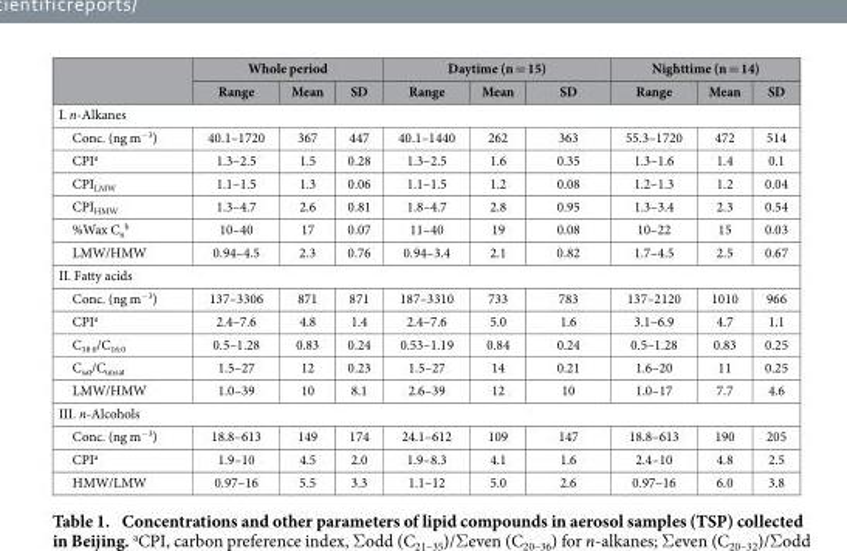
<table><thead><tr><td rowspan="2"></td><td colspan="3">Whole period</td><td colspan="3">Daytime (n = 15)</td><td colspan="3">Nighttime (n = 14)</td></tr><tr><td>Range</td><td>Mean</td><td>SD</td><td>Range</td><td>Mean</td><td>SD</td><td>Range</td><td>Mean</td><td>SD</td></tr></thead><tbody><tr><td colspan="10">I. n-Alkanes</td></tr><tr><td>Conc. (ng m<sup>−3</sup>)</td><td>40.1–1720</td><td>367</td><td>447</td><td>40.1–1440</td><td>262</td><td>363</td><td>55.3–1720</td><td>472</td><td>514</td></tr><tr><td>CPI<sup>a</sup></td><td>1.3–2.5</td><td>1.5</td><td>0.28</td><td>1.3–2.5</td><td>1.6</td><td>0.35</td><td>1.3–1.6</td><td>1.4</td><td>0.1</td></tr><tr><td>CPI<sub>LMW</sub></td><td>1.1–1.5</td><td>1.3</td><td>0.06</td><td>1.1–1.5</td><td>1.2</td><td>0.08</td><td>1.2–1.3</td><td>1.2</td><td>0.04</td></tr><tr><td>CPI<sub>HMW</sub></td><td>1.3–4.7</td><td>2.6</td><td>0.81</td><td>1.8–4.7</td><td>2.8</td><td>0.95</td><td>1.3–3.4</td><td>2.3</td><td>0.54</td></tr><tr><td>%Wax C<sub>n</sub> <sup>b</sup></td><td>10–40</td><td>17</td><td>0.07</td><td>11–40</td><td>19</td><td>0.08</td><td>10–22</td><td>15</td><td>0.03</td></tr><tr><td>LMW/HMW</td><td>0.94–4.5</td><td>2.3</td><td>0.76</td><td>0.94–3.4</td><td>2.1</td><td>0.82</td><td>1.7–4.5</td><td>2.5</td><td>0.67</td></tr><tr><td colspan="10">II. Fatty acids</td></tr><tr><td>Conc. (ng m<sup>−3</sup>)</td><td>137–3306</td><td>871</td><td>871</td><td>187–3310</td><td>733</td><td>783</td><td>137–2120</td><td>1010</td><td>966</td></tr><tr><td>CPI<sup>a</sup></td><td>2.4–7.6</td><td>4.8</td><td>1.4</td><td>2.4–7.6</td><td>5.0</td><td>1.6</td><td>3.1–6.9</td><td>4.7</td><td>1.1</td></tr><tr><td>C<sub>18:0</sub>/C<sub>16:0</sub></td><td>0.5–1.28</td><td>0.83</td><td>0.24</td><td>0.53–1.19</td><td>0.84</td><td>0.24</td><td>0.5–1.28</td><td>0.83</td><td>0.25</td></tr><tr><td>C<sub>sat</sub>/C<sub>unsat</sub></td><td>1.5–27</td><td>12</td><td>0.23</td><td>1.5–27</td><td>14</td><td>0.21</td><td>1.6–20</td><td>11</td><td>0.25</td></tr><tr><td>LMW/HMW</td><td>1.0–39</td><td>10</td><td>8.1</td><td>2.6–39</td><td>12</td><td>10</td><td>1.0–17</td><td>7.7</td><td>4.6</td></tr><tr><td colspan="10">III. n-Alcohols</td></tr><tr><td>Conc. (ng m<sup>−3</sup>)</td><td>18.8–613</td><td>149</td><td>174</td><td>24.1–612</td><td>109</td><td>147</td><td>18.8–613</td><td>190</td><td>205</td></tr><tr><td>CPI<sup>a</sup></td><td>1.9–10</td><td>4.5</td><td>2.0</td><td>1.9–8.3</td><td>4.1</td><td>1.6</td><td>2.4–10</td><td>4.8</td><td>2.5</td></tr><tr><td>HMW/LMW</td><td>0.97–16</td><td>5.5</td><td>3.3</td><td>1.1–12</td><td>5.0</td><td>2.6</td><td>0.97–16</td><td>6.0</td><td>3.8</td></tr></tbody></table>